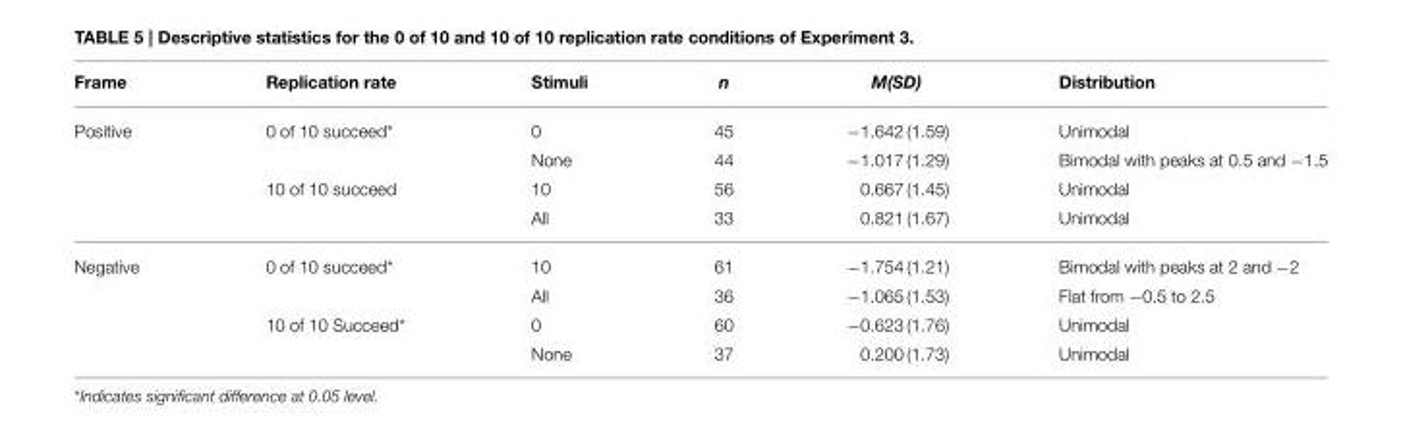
<table><thead><tr><td>Frame</td><td>Replication rate</td><td>Stimuli</td><td>n</td><td>M(SD)</td><td>Distribution</td></tr></thead><tbody><tr><td rowspan="4">Positive</td><td>0 of 10 succeed*</td><td>0</td><td>45</td><td>−1.642 (1.59)</td><td>Unimodal</td></tr><tr><td></td><td>None</td><td>44</td><td>−1.017 (1.29)</td><td>Bimodal with peaks at 0.5 and −1.5</td></tr><tr><td>10 of 10 succeed</td><td>10</td><td>56</td><td>0.667 (1.45)</td><td>Unimodal</td></tr><tr><td></td><td>All</td><td>33</td><td>0.821 (1.67)</td><td>Unimodal</td></tr><tr><td rowspan="4">Negative</td><td>0 of 10 succeed*</td><td>10</td><td>61</td><td>−1.754 (1.21)</td><td>Bimodal with peaks at 2 and −2</td></tr><tr><td></td><td>All</td><td>36</td><td>−1.065 (1.53)</td><td>Flat from −0.5 to 2.5</td></tr><tr><td>10 of 10 Succeed*</td><td>0</td><td>60</td><td>−0.623 (1.76)</td><td>Unimodal</td></tr><tr><td></td><td>None</td><td>37</td><td>0.200 (1.73)</td><td>Unimodal</td></tr></tbody></table>